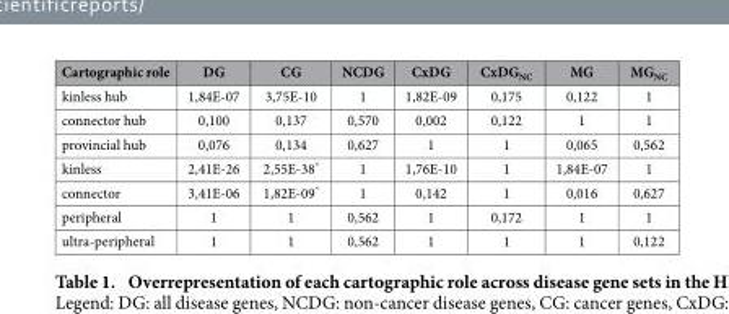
<table><thead><tr><td>Cartographic role</td><td>DG</td><td>CG</td><td>NCDG</td><td>CxDG</td><td>CxDG<sub>NC</sub></td><td>MG</td><td>MG<sub>NC</sub></td></tr></thead><tbody><tr><td>kinless hub</td><td>1,84E-07</td><td>3,75E-10</td><td>1</td><td>1,82E-09</td><td>0,175</td><td>0,122</td><td>1</td></tr><tr><td>connector hub</td><td>0,100</td><td>0,137</td><td>0,570</td><td>0,002</td><td>0,122</td><td>1</td><td>1</td></tr><tr><td>provincial hub</td><td>0,076</td><td>0,134</td><td>0,627</td><td>1</td><td>1</td><td>0,065</td><td>0,562</td></tr><tr><td>kinless</td><td>2,41E-26</td><td>2,55E-38*</td><td>1</td><td>1,76E-10</td><td>1</td><td>1,84E-07</td><td>1</td></tr><tr><td>connector</td><td>3,41E-06</td><td>1,82E-09*</td><td>1</td><td>0,142</td><td>1</td><td>0,016</td><td>0,627</td></tr><tr><td>peripheral</td><td>1</td><td>1</td><td>0,562</td><td>1</td><td>0,172</td><td>1</td><td>1</td></tr><tr><td>ultra-peripheral</td><td>1</td><td>1</td><td>0,562</td><td>1</td><td>1</td><td>1</td><td>0,122</td></tr></tbody></table>